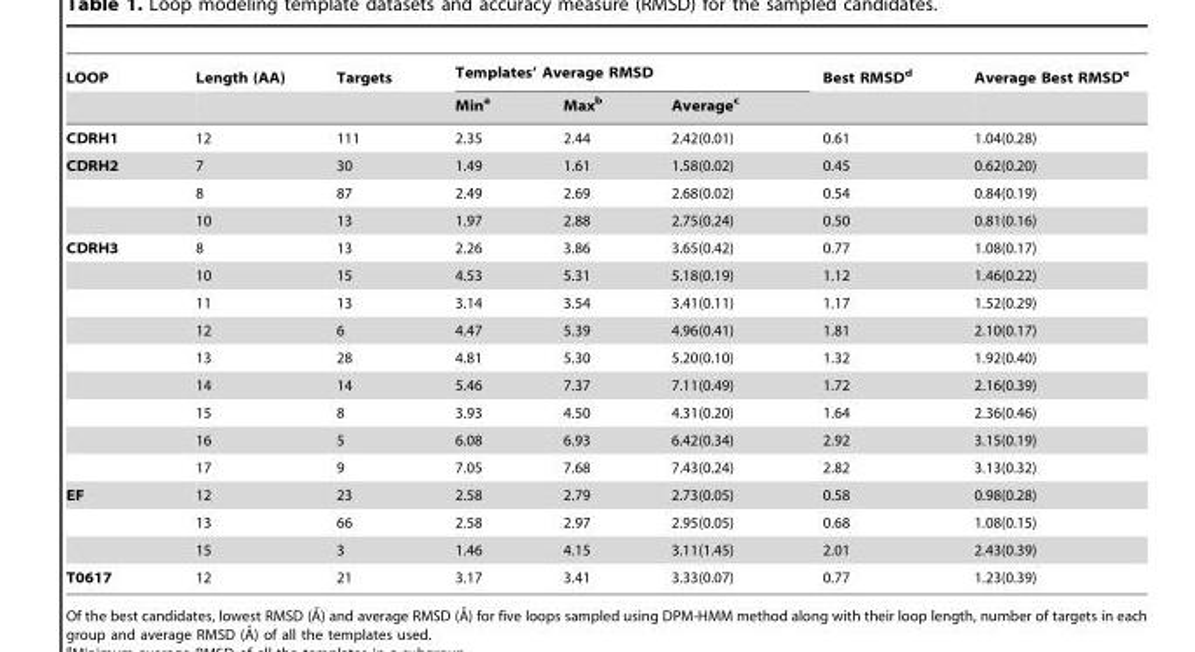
<table><thead><tr><td rowspan="2">LOOP</td><td rowspan="2">Length (AA)</td><td rowspan="2">Targets</td><td colspan="3">Templates’ Average RMSD</td><td rowspan="2">Best RMSD<sup>d</sup></td><td rowspan="2">Average Best RMSD<sup>e</sup></td></tr><tr><td>Min<sup>a</sup></td><td>Max<sup>b</sup></td><td>Average<sup>c</sup></td></tr></thead><tbody><tr><td>CDRH1</td><td>12</td><td>111</td><td>2.35</td><td>2.44</td><td>2.42(0.01)</td><td>0.61</td><td>1.04(0.28)</td></tr><tr><td rowspan="3">CDRH2</td><td>7</td><td>30</td><td>1.49</td><td>1.61</td><td>1.58(0.02)</td><td>0.45</td><td>0.62(0.20)</td></tr><tr><td>8</td><td>87</td><td>2.49</td><td>2.69</td><td>2.68(0.02)</td><td>0.54</td><td>0.84(0.19)</td></tr><tr><td>10</td><td>13</td><td>1.97</td><td>2.88</td><td>2.75(0.24)</td><td>0.50</td><td>0.81(0.16)</td></tr><tr><td rowspan="9">CDRH3</td><td>8</td><td>13</td><td>2.26</td><td>3.86</td><td>3.65(0.42)</td><td>0.77</td><td>1.08(0.17)</td></tr><tr><td>10</td><td>15</td><td>4.53</td><td>5.31</td><td>5.18(0.19)</td><td>1.12</td><td>1.46(0.22)</td></tr><tr><td>11</td><td>13</td><td>3.14</td><td>3.54</td><td>3.41(0.11)</td><td>1.17</td><td>1.52(0.29)</td></tr><tr><td>12</td><td>6</td><td>4.47</td><td>5.39</td><td>4.96(0.41)</td><td>1.81</td><td>2.10(0.17)</td></tr><tr><td>13</td><td>28</td><td>4.81</td><td>5.30</td><td>5.20(0.10)</td><td>1.32</td><td>1.92(0.40)</td></tr><tr><td>14</td><td>14</td><td>5.46</td><td>7.37</td><td>7.11(0.49)</td><td>1.72</td><td>2.16(0.39)</td></tr><tr><td>15</td><td>8</td><td>3.93</td><td>4.50</td><td>4.31(0.20)</td><td>1.64</td><td>2.36(0.46)</td></tr><tr><td>16</td><td>5</td><td>6.08</td><td>6.93</td><td>6.42(0.34)</td><td>2.92</td><td>3.15(0.19)</td></tr><tr><td>17</td><td>9</td><td>7.05</td><td>7.68</td><td>7.43(0.24)</td><td>2.82</td><td>3.13(0.32)</td></tr><tr><td rowspan="3">EF</td><td>12</td><td>23</td><td>2.58</td><td>2.79</td><td>2.73(0.05)</td><td>0.58</td><td>0.98(0.28)</td></tr><tr><td>13</td><td>66</td><td>2.58</td><td>2.97</td><td>2.95(0.05)</td><td>0.68</td><td>1.08(0.15)</td></tr><tr><td>15</td><td>3</td><td>1.46</td><td>4.15</td><td>3.11(1.45)</td><td>2.01</td><td>2.43(0.39)</td></tr><tr><td>T0617</td><td>12</td><td>21</td><td>3.17</td><td>3.41</td><td>3.33(0.07)</td><td>0.77</td><td>1.23(0.39)</td></tr></tbody></table>